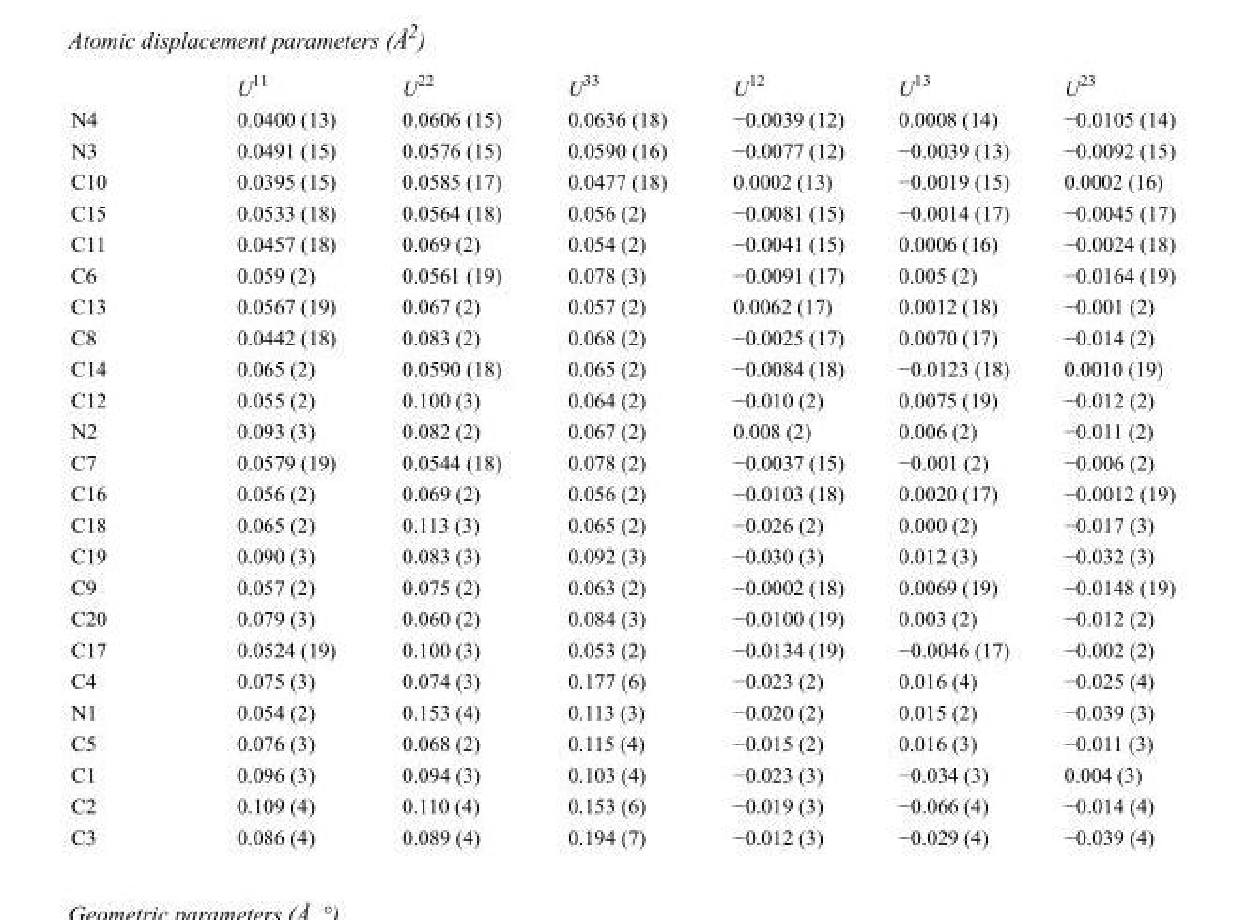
<table><thead><tr><td></td><td>U<sup>11</sup></td><td>U<sup>22</sup></td><td>U<sup>33</sup></td><td>U<sup>12</sup></td><td>U<sup>13</sup></td><td>U<sup>23</sup></td></tr></thead><tbody><tr><td>N4</td><td>0.0400 (13)</td><td>0.0606 (15)</td><td>0.0636 (18)</td><td>−0.0039 (12)</td><td>0.0008 (14)</td><td>−0.0105 (14)</td></tr><tr><td>N3</td><td>0.0491 (15)</td><td>0.0576 (15)</td><td>0.0590 (16)</td><td>−0.0077 (12)</td><td>−0.0039 (13)</td><td>−0.0092 (15)</td></tr><tr><td>C10</td><td>0.0395 (15)</td><td>0.0585 (17)</td><td>0.0477 (18)</td><td>0.0002 (13)</td><td>−0.0019 (15)</td><td>0.0002 (16)</td></tr><tr><td>C15</td><td>0.0533 (18)</td><td>0.0564 (18)</td><td>0.056 (2)</td><td>−0.0081 (15)</td><td>−0.0014 (17)</td><td>−0.0045 (17)</td></tr><tr><td>C11</td><td>0.0457 (18)</td><td>0.069 (2)</td><td>0.054 (2)</td><td>−0.0041 (15)</td><td>0.0006 (16)</td><td>−0.0024 (18)</td></tr><tr><td>C6</td><td>0.059 (2)</td><td>0.0561 (19)</td><td>0.078 (3)</td><td>−0.0091 (17)</td><td>0.005 (2)</td><td>−0.0164 (19)</td></tr><tr><td>C13</td><td>0.0567 (19)</td><td>0.067 (2)</td><td>0.057 (2)</td><td>0.0062 (17)</td><td>0.0012 (18)</td><td>−0.001 (2)</td></tr><tr><td>C8</td><td>0.0442 (18)</td><td>0.083 (2)</td><td>0.068 (2)</td><td>−0.0025 (17)</td><td>0.0070 (17)</td><td>−0.014 (2)</td></tr><tr><td>C14</td><td>0.065 (2)</td><td>0.0590 (18)</td><td>0.065 (2)</td><td>−0.0084 (18)</td><td>−0.0123 (18)</td><td>0.0010 (19)</td></tr><tr><td>C12</td><td>0.055 (2)</td><td>0.100 (3)</td><td>0.064 (2)</td><td>−0.010 (2)</td><td>0.0075 (19)</td><td>−0.012 (2)</td></tr><tr><td>N2</td><td>0.093 (3)</td><td>0.082 (2)</td><td>0.067 (2)</td><td>0.008 (2)</td><td>0.006 (2)</td><td>−0.011 (2)</td></tr><tr><td>C7</td><td>0.0579 (19)</td><td>0.0544 (18)</td><td>0.078 (2)</td><td>−0.0037 (15)</td><td>−0.001 (2)</td><td>−0.006 (2)</td></tr><tr><td>C16</td><td>0.056 (2)</td><td>0.069 (2)</td><td>0.056 (2)</td><td>−0.0103 (18)</td><td>0.0020 (17)</td><td>−0.0012 (19)</td></tr><tr><td>C18</td><td>0.065 (2)</td><td>0.113 (3)</td><td>0.065 (2)</td><td>−0.026 (2)</td><td>0.000 (2)</td><td>−0.017 (3)</td></tr><tr><td>C19</td><td>0.090 (3)</td><td>0.083 (3)</td><td>0.092 (3)</td><td>−0.030 (3)</td><td>0.012 (3)</td><td>−0.032 (3)</td></tr><tr><td>C9</td><td>0.057 (2)</td><td>0.075 (2)</td><td>0.063 (2)</td><td>−0.0002 (18)</td><td>0.0069 (19)</td><td>−0.0148 (19)</td></tr><tr><td>C20</td><td>0.079 (3)</td><td>0.060 (2)</td><td>0.084 (3)</td><td>−0.0100 (19)</td><td>0.003 (2)</td><td>−0.012 (2)</td></tr><tr><td>C17</td><td>0.0524 (19)</td><td>0.100 (3)</td><td>0.053 (2)</td><td>−0.0134 (19)</td><td>−0.0046 (17)</td><td>−0.002 (2)</td></tr><tr><td>C4</td><td>0.075 (3)</td><td>0.074 (3)</td><td>0.177 (6)</td><td>−0.023 (2)</td><td>0.016 (4)</td><td>−0.025 (4)</td></tr><tr><td>N1</td><td>0.054 (2)</td><td>0.153 (4)</td><td>0.113 (3)</td><td>−0.020 (2)</td><td>0.015 (2)</td><td>−0.039 (3)</td></tr><tr><td>C5</td><td>0.076 (3)</td><td>0.068 (2)</td><td>0.115 (4)</td><td>−0.015 (2)</td><td>0.016 (3)</td><td>−0.011 (3)</td></tr><tr><td>C1</td><td>0.096 (3)</td><td>0.094 (3)</td><td>0.103 (4)</td><td>−0.023 (3)</td><td>−0.034 (3)</td><td>0.004 (3)</td></tr><tr><td>C2</td><td>0.109 (4)</td><td>0.110 (4)</td><td>0.153 (6)</td><td>−0.019 (3)</td><td>−0.066 (4)</td><td>−0.014 (4)</td></tr><tr><td>C3</td><td>0.086 (4)</td><td>0.089 (4)</td><td>0.194 (7)</td><td>−0.012 (3)</td><td>−0.029 (4)</td><td>−0.039 (4)</td></tr></tbody></table>